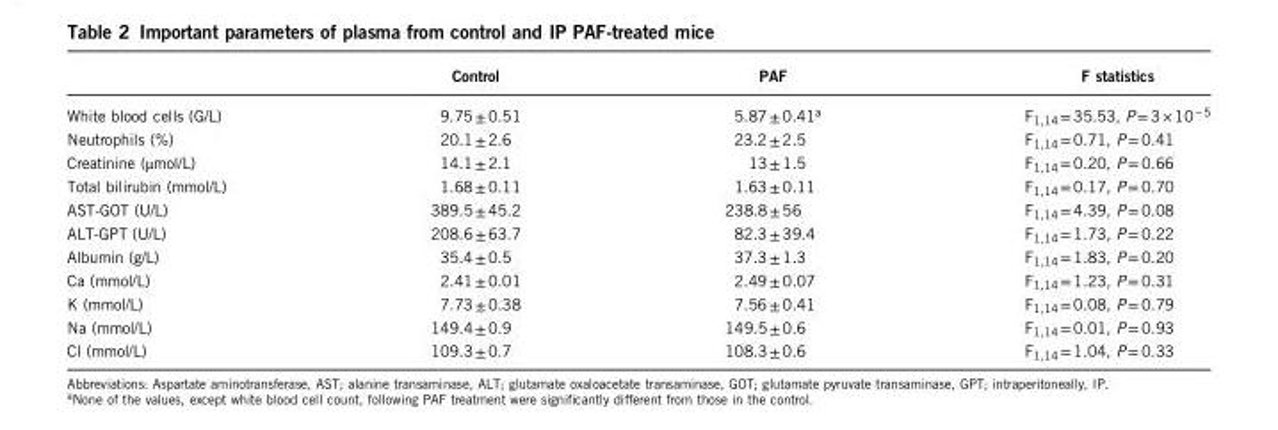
<table><thead><tr><td></td><td>Control</td><td>PAF</td><td>F statistics</td></tr></thead><tbody><tr><td>White blood cells (G/L)</td><td>9.75± 0.51</td><td>5.87± 0.41<sup>a</sup></td><td>F<sub>1,14</sub> = 35.53, P = 3 × 10<sup>− 5</sup></td></tr><tr><td>Neutrophils (%)</td><td>20.1± 2.6</td><td>23.2± 2.5</td><td>F<sub>1,14</sub> = 0.71, P = 0.41</td></tr><tr><td>Creatinine (μmol/L)</td><td>14.1± 2.1</td><td>13± 1.5</td><td>F<sub>1,14</sub> = 0.20, P = 0.66</td></tr><tr><td>Total bilirubin (mmol/L)</td><td>1.68± 0.11</td><td>1.63± 0.11</td><td>F<sub>1,14</sub> = 0.17, P = 0.70</td></tr><tr><td>AST-GOT (U/L)</td><td>389.5± 45.2</td><td>238.8± 56</td><td>F<sub>1,14</sub> = 4.39, P = 0.08</td></tr><tr><td>ALT-GPT (U/L)</td><td>208.6± 63.7</td><td>82.3± 39.4</td><td>F<sub>1,14</sub> = 1.73, P = 0.22</td></tr><tr><td>Albumin (g/L)</td><td>35.4± 0.5</td><td>37.3± 1.3</td><td>F<sub>1,14</sub> = 1.83, P = 0.20</td></tr><tr><td>Ca (mmol/L)</td><td>2.41± 0.01</td><td>2.49± 0.07</td><td>F<sub>1,14</sub> = 1.23, P = 0.31</td></tr><tr><td>K (mmol/L)</td><td>7.73± 0.38</td><td>7.56± 0.41</td><td>F<sub>1,14</sub> = 0.08, P = 0.79</td></tr><tr><td>Na (mmol/L)</td><td>149.4± 0.9</td><td>149.5± 0.6</td><td>F<sub>1,14</sub> = 0.01, P = 0.93</td></tr><tr><td>Cl (mmol/L)</td><td>109.3± 0.7</td><td>108.3± 0.6</td><td>F<sub>1,14</sub> = 1.04, P = 0.33</td></tr></tbody></table>